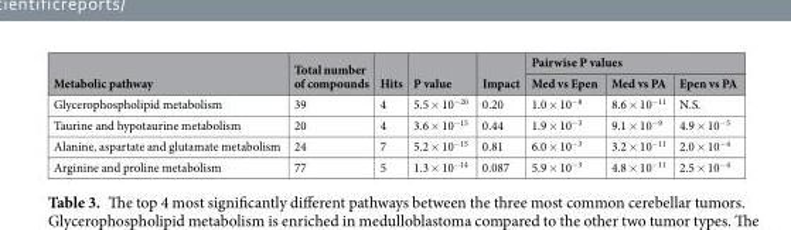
<table><thead><tr><td rowspan="2">Metabolic pathway</td><td rowspan="2">Total number of compounds</td><td rowspan="2">Hits</td><td rowspan="2">P value</td><td rowspan="2">Impact</td><td colspan="3">Pairwise P values</td></tr><tr><td>Med vs Epen</td><td>Med vs PA</td><td>Epen vs PA</td></tr></thead><tbody><tr><td>Glycerophospholipid metabolism</td><td>39</td><td>4</td><td>5.5 × 10<sup>−20</sup></td><td>0.20</td><td>1.0 × 10<sup>−8</sup></td><td>8.6 × 10<sup>−11</sup></td><td>N.S.</td></tr><tr><td>Taurine and hypotaurine metabolism</td><td>20</td><td>4</td><td>3.6 × 10<sup>−15</sup></td><td>0.44</td><td>1.9 × 10<sup>−3</sup></td><td>9.1 × 10<sup>−9</sup></td><td>4.9 × 10<sup>−5</sup></td></tr><tr><td>Alanine, aspartate and glutamate metabolism</td><td>24</td><td>7</td><td>5.2 × 10<sup>−15</sup></td><td>0.81</td><td>6.0 × 10<sup>−3</sup></td><td>3.2 × 10<sup>−11</sup></td><td>2.0 × 10<sup>−4</sup></td></tr><tr><td>Arginine and proline metabolism</td><td>77</td><td>5</td><td>1.3 × 10<sup>−14</sup></td><td>0.087</td><td>5.9 × 10<sup>−3</sup></td><td>4.8 × 10<sup>−11</sup></td><td>2.5 × 10<sup>−4</sup></td></tr></tbody></table>